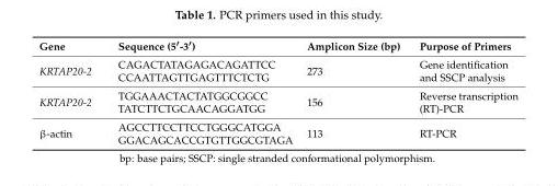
<table><thead><tr><td>Gene</td><td>Sequence (5′-3′)</td><td>Amplicon Size (bp)</td><td>Purpose of Primers</td></tr></thead><tbody><tr><td>KRTAP20-2</td><td>CAGACTATAGAGACAGATTCC CCAATTAGTTGAGTTTCTCTG</td><td>273</td><td>Gene identification and SSCP analysis</td></tr><tr><td>KRTAP20-2</td><td>TGGAAACTACTATGGCGGCC TATCTTCTGCAACAGGATGG</td><td>156</td><td>Reverse transcription (RT)-PCR</td></tr><tr><td>β-actin</td><td>AGCCTTCCTTCCTGGGCATGGA GGACAGCACCGTGTTGGCGTAGA</td><td>113</td><td>RT-PCR</td></tr></tbody></table>